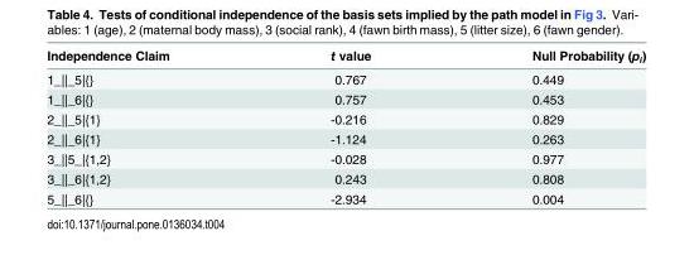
<table><thead><tr><td>Independence Claim</td><td>t value</td><td>Null Probability (p<sub>i</sub>)</td></tr></thead><tbody><tr><td>1_||_5|{}</td><td>0.767</td><td>0.449</td></tr><tr><td>1_||_6|{}</td><td>0.757</td><td>0.453</td></tr><tr><td>2_||_5|{1}</td><td>-0.216</td><td>0.829</td></tr><tr><td>2_||_6|{1}</td><td>-1.124</td><td>0.263</td></tr><tr><td>3_||5_|{1,2}</td><td>-0.028</td><td>0.977</td></tr><tr><td>3_||_6|{1,2}</td><td>0.243</td><td>0.808</td></tr><tr><td>5_||_6|{}</td><td>-2.934</td><td>0.004</td></tr></tbody></table>